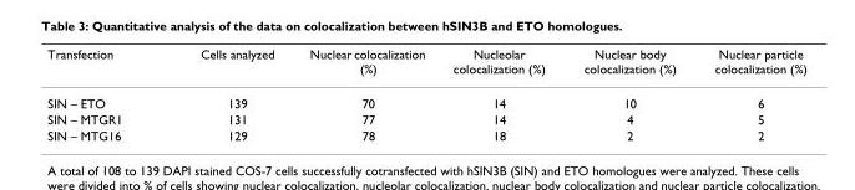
<table><thead><tr><td>Transfection</td><td>Cells analyzed</td><td>Nuclear colocalization (%)</td><td>Nucleolar colocalization (%)</td><td>Nuclear body colocalization (%)</td><td>Nuclear particle colocalization (%)</td></tr></thead><tbody><tr><td>SIN – ETO</td><td>139</td><td>70</td><td>14</td><td>10</td><td>6</td></tr><tr><td>SIN – MTGR1</td><td>131</td><td>77</td><td>14</td><td>4</td><td>5</td></tr><tr><td>SIN – MTG16</td><td>129</td><td>78</td><td>18</td><td>2</td><td>2</td></tr></tbody></table>